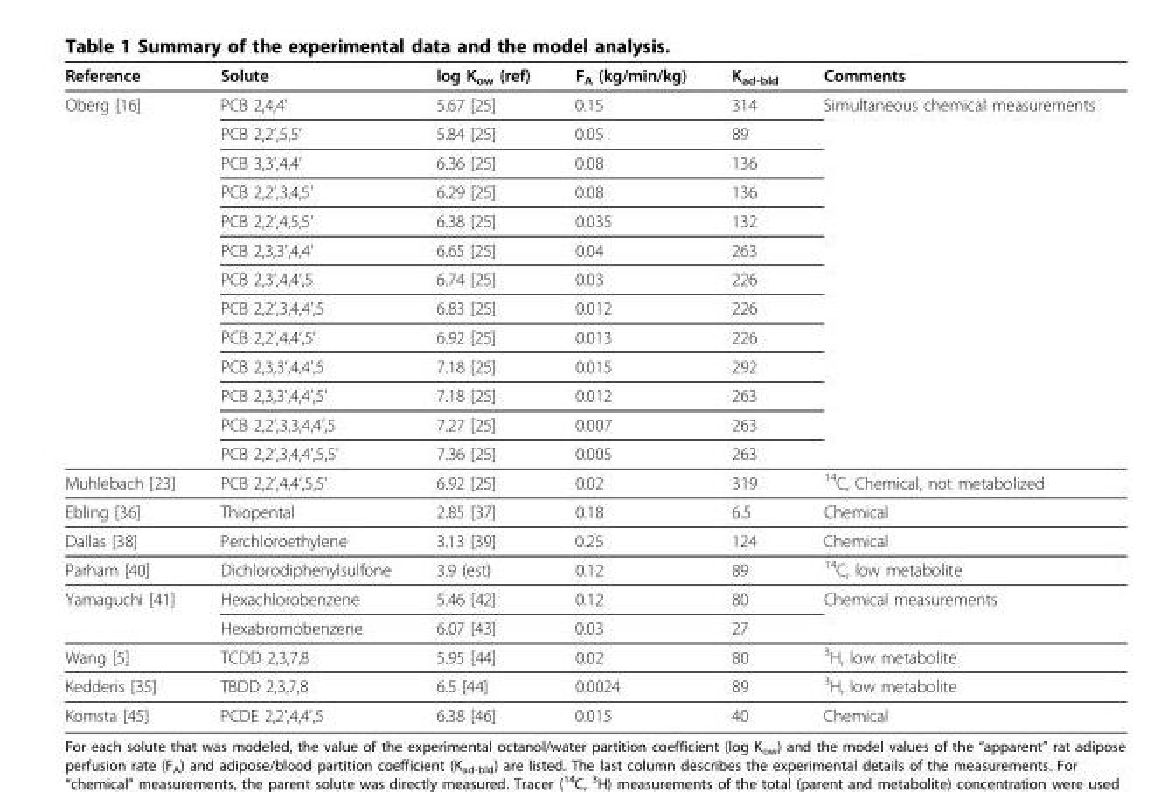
<table><thead><tr><td>Reference</td><td>Solute</td><td>log K<sub>ow</sub> (ref)</td><td>F<sub>A</sub> (kg/min/kg)</td><td>K<sub>ad-bld</sub></td><td>Comments</td></tr></thead><tbody><tr><td rowspan="13">Oberg [16]</td><td>PCB 2,4,4’</td><td>5.67 [25]</td><td>0.15</td><td>314</td><td>Simultaneous chemical measurements</td></tr><tr><td>PCB 2,2’,5,5’</td><td>5.84 [25]</td><td>0.05</td><td>89</td><td></td></tr><tr><td>PCB 3,3’,4,4’</td><td>6.36 [25]</td><td>0.08</td><td>136</td><td></td></tr><tr><td>PCB 2,2’,3,4,5’</td><td>6.29 [25]</td><td>0.08</td><td>136</td><td></td></tr><tr><td>PCB 2,2’,4,5,5’</td><td>6.38 [25]</td><td>0.035</td><td>132</td><td></td></tr><tr><td>PCB 2,3,3’,4,4’</td><td>6.65 [25]</td><td>0.04</td><td>263</td><td></td></tr><tr><td>PCB 2,3’,4,4’,5</td><td>6.74 [25]</td><td>0.03</td><td>226</td><td></td></tr><tr><td>PCB 2,2’,3,4,4’,5</td><td>6.83 [25]</td><td>0.012</td><td>226</td><td></td></tr><tr><td>PCB 2,2’,4,4’,5’</td><td>6.92 [25]</td><td>0.013</td><td>226</td><td></td></tr><tr><td>PCB 2,3,3’,4,4’,5</td><td>7.18 [25]</td><td>0.015</td><td>292</td><td></td></tr><tr><td>PCB 2,3,3’,4,4’,5’</td><td>7.18 [25]</td><td>0.012</td><td>263</td><td></td></tr><tr><td>PCB 2,2’,3,3,4,4’,5</td><td>7.27 [25]</td><td>0.007</td><td>263</td><td></td></tr><tr><td>PCB 2,2’,3,4,4’,5,5’</td><td>7.36 [25]</td><td>0.005</td><td>263</td><td></td></tr><tr><td>Muhlebach [23]</td><td>PCB 2,2’,4,4’,5,5’</td><td>6.92 [25]</td><td>0.02</td><td>319</td><td><sup>14</sup>C, Chemical, not metabolized</td></tr><tr><td>Ebling [36]</td><td>Thiopental</td><td>2.85 [37]</td><td>0.18</td><td>6.5</td><td>Chemical</td></tr><tr><td>Dallas [38]</td><td>Perchloroethylene</td><td>3.13 [39]</td><td>0.25</td><td>124</td><td>Chemical</td></tr><tr><td>Parham [40]</td><td>Dichlorodiphenylsulfone</td><td>3.9 (est)</td><td>0.12</td><td>89</td><td><sup>14</sup>C, low metabolite</td></tr><tr><td rowspan="2">Yamaguchi [41]</td><td>Hexachlorobenzene</td><td>5.46 [42]</td><td>0.12</td><td>80</td><td>Chemical measurements</td></tr><tr><td>Hexabromobenzene</td><td>6.07 [43]</td><td>0.03</td><td>27</td><td></td></tr><tr><td>Wang [5]</td><td>TCDD 2,3,7,8</td><td>5.95 [44]</td><td>0.02</td><td>80</td><td><sup>3</sup>H, low metabolite</td></tr><tr><td>Kedderis [35]</td><td>TBDD 2,3,7,8</td><td>6.5 [44]</td><td>0.0024</td><td>89</td><td><sup>3</sup>H, low metabolite</td></tr><tr><td>Komsta [45]</td><td>PCDE 2,2’,4,4’,5</td><td>6.38 [46]</td><td>0.015</td><td>40</td><td>Chemical</td></tr></tbody></table>